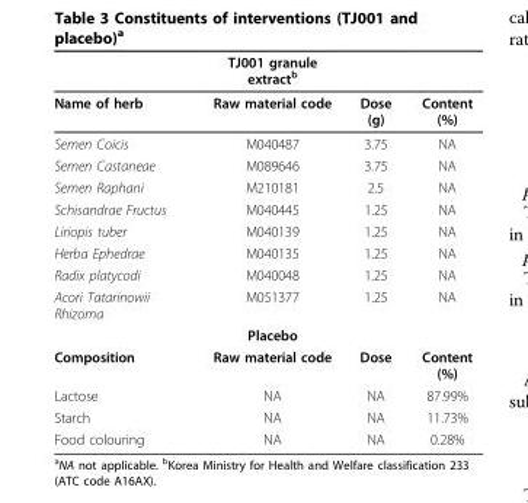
<table><thead><tr><td></td><td>TJ001 granule extract<sup>b</sup></td><td></td><td></td></tr></thead><tbody><tr><td>Name of herb</td><td>Raw material code</td><td>Dose (g)</td><td>Content (%)</td></tr><tr><td>Semen Coicis</td><td>M040487</td><td>3.75</td><td>NA</td></tr><tr><td>Semen Castaneae</td><td>M089646</td><td>3.75</td><td>NA</td></tr><tr><td>Semen Raphani</td><td>M210181</td><td>2.5</td><td>NA</td></tr><tr><td>Schisandrae Fructus</td><td>M040445</td><td>1.25</td><td>NA</td></tr><tr><td>Liriopis tuber</td><td>M040139</td><td>1.25</td><td>NA</td></tr><tr><td>Herba Ephedrae</td><td>M040135</td><td>1.25</td><td>NA</td></tr><tr><td>Radix platycodi</td><td>M040048</td><td>1.25</td><td>NA</td></tr><tr><td rowspan="2">Acori Tatarinowii Rhizoma</td><td>M051377</td><td>1.25</td><td>NA</td></tr><tr><td>Placebo</td><td></td><td></td></tr><tr><td>Composition</td><td>Raw material code</td><td>Dose</td><td>Content (%)</td></tr><tr><td>Lactose</td><td>NA</td><td>NA</td><td>87.99%</td></tr><tr><td>Starch</td><td>NA</td><td>NA</td><td>11.73%</td></tr><tr><td>Food colouring</td><td>NA</td><td>NA</td><td>0.28%</td></tr></tbody></table>